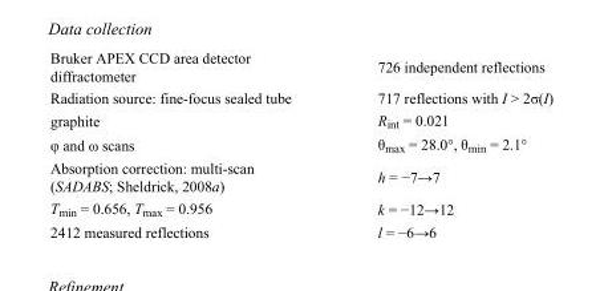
<table><tbody><tr><td>Bruker APEX CCD area detector diffractometer</td><td>726 independent reflections</td></tr><tr><td>Radiation source: fine-focus sealed tube</td><td>717 reflections with I &gt; 2σ(I)</td></tr><tr><td>graphite</td><td>R<sub>int</sub> = 0.021</td></tr><tr><td>φ and ω scans</td><td>θ<sub>max</sub> = 28.0°, θ<sub>min</sub> = 2.1°</td></tr><tr><td>Absorption correction: multi-scan (SADABS; Sheldrick, 2008a)</td><td>h = −7→7</td></tr><tr><td>T<sub>min</sub> = 0.656, T<sub>max</sub> = 0.956</td><td>k = −12→12</td></tr><tr><td>2412 measured reflections</td><td>l = −6→6</td></tr></tbody></table>